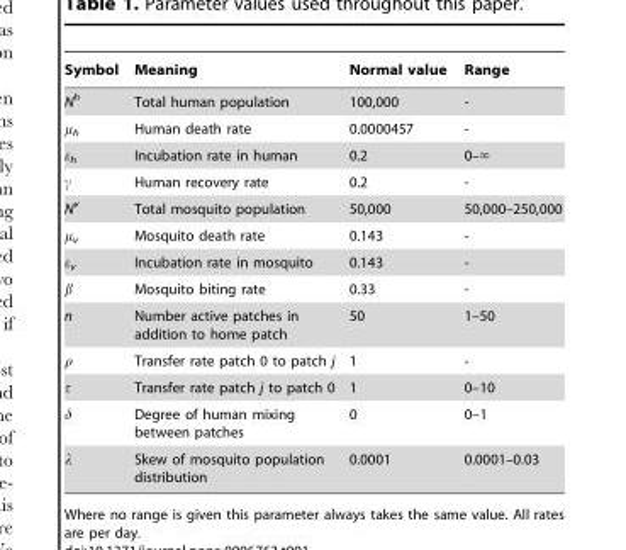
<table><thead><tr><td>Symbol</td><td>Meaning</td><td>Normal value</td><td>Range</td></tr></thead><tbody><tr><td>N<sup>h</sup></td><td>Total human population</td><td>100,000</td><td>-</td></tr><tr><td>μ<sub>h</sub></td><td>Human death rate</td><td>0.0000457</td><td>-</td></tr><tr><td>ε<sub>h</sub></td><td>Incubation rate in human</td><td>0.2</td><td>0–‘</td></tr><tr><td>γ</td><td>Human recovery rate</td><td>0.2</td><td>-</td></tr><tr><td>N<sup>v</sup></td><td>Total mosquito population</td><td>50,000</td><td>50,000–250,000</td></tr><tr><td>μ<sub>v</sub></td><td>Mosquito death rate</td><td>0.143</td><td>-</td></tr><tr><td>ε<sub>v</sub></td><td>Incubation rate in mosquito</td><td>0.143</td><td>-</td></tr><tr><td>β</td><td>Mosquito biting rate</td><td>0.33</td><td>-</td></tr><tr><td>n</td><td>Number active patches in addition to home patch</td><td>50</td><td>1–50</td></tr><tr><td>ρ</td><td>Transfer rate patch 0 to patch j</td><td>1</td><td>-</td></tr><tr><td>τ</td><td>Transfer rate patch j to patch 0</td><td>1</td><td>0–10</td></tr><tr><td>δ</td><td>Degree of human mixing between patches</td><td>0</td><td>0–1</td></tr><tr><td>λ</td><td>Skew of mosquito population distribution</td><td>0.0001</td><td>0.0001–0.03</td></tr></tbody></table>